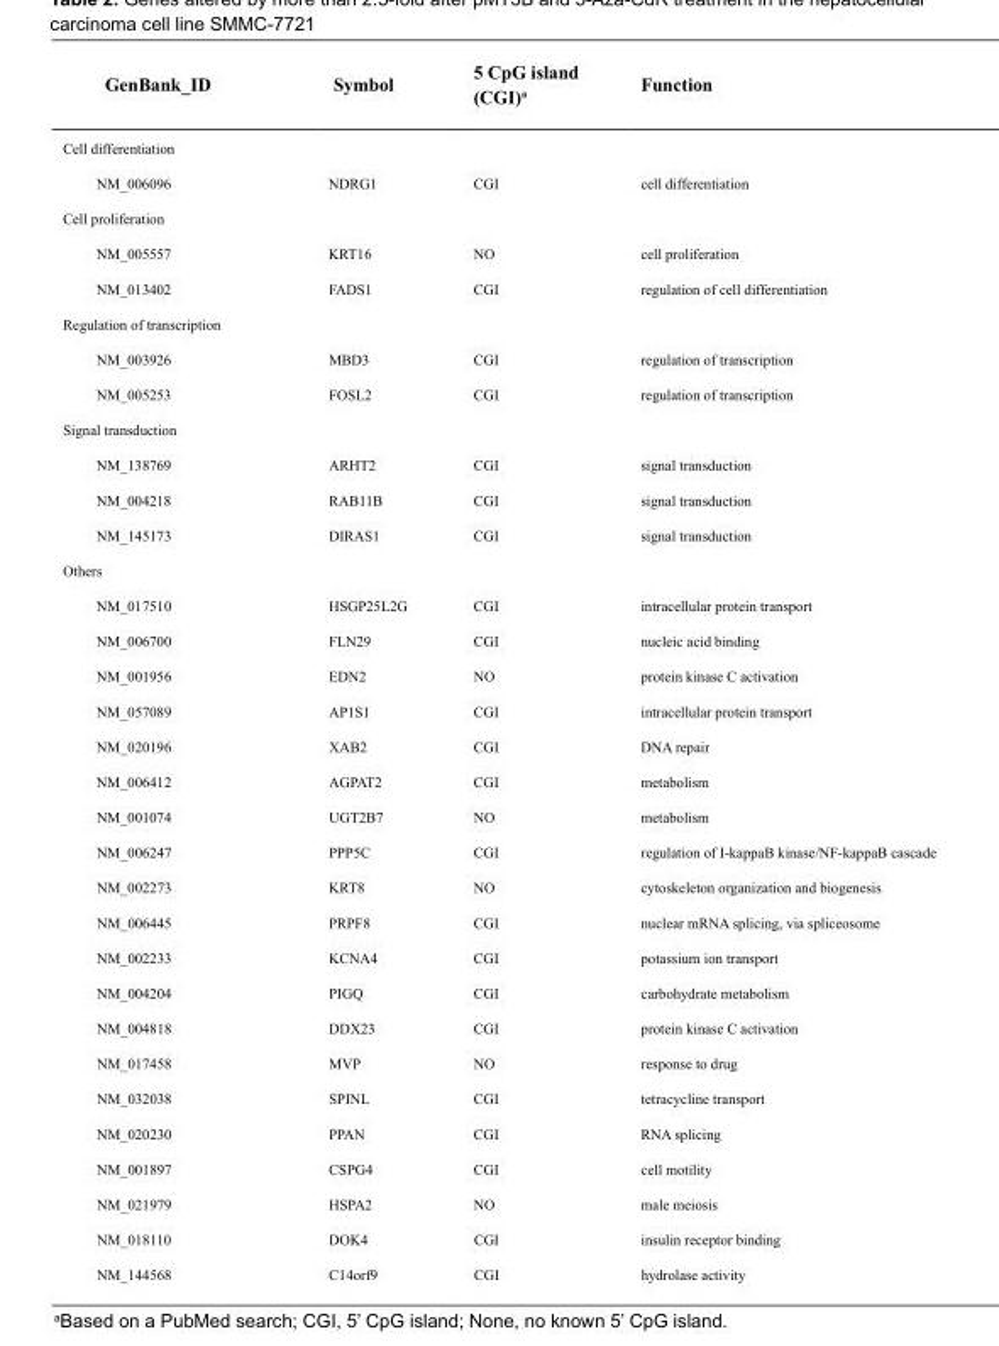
<table><thead><tr><td>GenBank_ID</td><td>Symbol</td><td>5 CpG island (CGI)<sup>a</sup></td><td>Function</td></tr></thead><tbody><tr><td colspan="4">Cell differentiation</td></tr><tr><td>NM_006096</td><td>NDRG1</td><td>CGI</td><td>cell differentiation</td></tr><tr><td colspan="4">Cell proliferation</td></tr><tr><td>NM_005557</td><td>KRT16</td><td>NO</td><td>cell proliferation</td></tr><tr><td>NM_013402</td><td>FADS1</td><td>CGI</td><td>regulation of cell differentiation</td></tr><tr><td colspan="4">Regulation of transcription</td></tr><tr><td>NM_003926</td><td>MBD3</td><td>CGI</td><td>regulation of transcription</td></tr><tr><td>NM_005253</td><td>FOSL2</td><td>CGI</td><td>regulation of transcription</td></tr><tr><td colspan="4">Signal transduction</td></tr><tr><td>NM_138769</td><td>ARHT2</td><td>CGI</td><td>signal transduction</td></tr><tr><td>NM_004218</td><td>RAB11B</td><td>CGI</td><td>signal transduction</td></tr><tr><td>NM_145173</td><td>DIRAS1</td><td>CGI</td><td>signal transduction</td></tr><tr><td colspan="4">Others</td></tr><tr><td>NM_017510</td><td>HSGP25L2G</td><td>CGI</td><td>intracellular protein transport</td></tr><tr><td>NM_006700</td><td>FLN29</td><td>CGI</td><td>nucleic acid binding</td></tr><tr><td>NM_001956</td><td>EDN2</td><td>NO</td><td>protein kinase C activation</td></tr><tr><td>NM_057089</td><td>AP1S1</td><td>CGI</td><td>intracellular protein transport</td></tr><tr><td>NM_020196</td><td>XAB2</td><td>CGI</td><td>DNA repair</td></tr><tr><td>NM_006412</td><td>AGPAT2</td><td>CGI</td><td>metabolism</td></tr><tr><td>NM_001074</td><td>UGT2B7</td><td>NO</td><td>metabolism</td></tr><tr><td>NM_006247</td><td>PPP5C</td><td>CGI</td><td>regulation of I-kappaB kinase/NF-kappaB cascade</td></tr><tr><td>NM_002273</td><td>KRT8</td><td>NO</td><td>cytoskeleton organization and biogenesis</td></tr><tr><td>NM_006445</td><td>PRPF8</td><td>CGI</td><td>nuclear mRNA splicing, via spliceosome</td></tr><tr><td>NM_002233</td><td>KCNA4</td><td>CGI</td><td>potassium ion transport</td></tr><tr><td>NM_004204</td><td>PIGQ</td><td>CGI</td><td>carbohydrate metabolism</td></tr><tr><td>NM_004818</td><td>DDX23</td><td>CGI</td><td>protein kinase C activation</td></tr><tr><td>NM_017458</td><td>MVP</td><td>NO</td><td>response to drug</td></tr><tr><td>NM_032038</td><td>SPINL</td><td>CGI</td><td>tetracycline transport</td></tr><tr><td>NM_020230</td><td>PPAN</td><td>CGI</td><td>RNA splicing</td></tr><tr><td>NM_001897</td><td>CSPG4</td><td>CGI</td><td>cell motility</td></tr><tr><td>NM_021979</td><td>HSPA2</td><td>NO</td><td>male meiosis</td></tr><tr><td>NM_018110</td><td>DOK4</td><td>CGI</td><td>insulin receptor binding</td></tr><tr><td>NM_144568</td><td>C14orf9</td><td>CGI</td><td>hydrolase activity</td></tr></tbody></table>